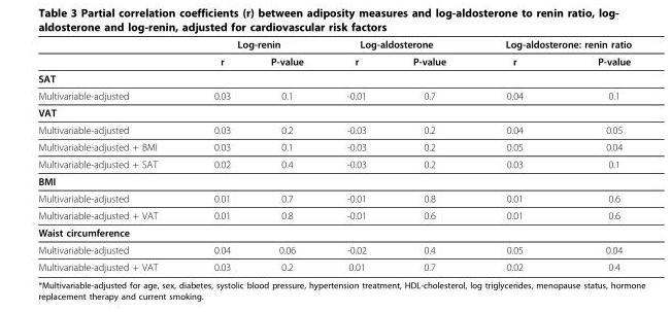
<table><thead><tr><td rowspan="2"></td><td colspan="2">Log-renin</td><td colspan="2">Log-aldosterone</td><td colspan="2">Log-aldosterone: renin ratio</td></tr><tr><td>r</td><td>P-value</td><td>r</td><td>P-value</td><td>r</td><td>P-value</td></tr></thead><tbody><tr><td colspan="7">SAT</td></tr><tr><td>Multivariable-adjusted</td><td>0.03</td><td>0.1</td><td>-0.01</td><td>0.7</td><td>0.04</td><td>0.1</td></tr><tr><td colspan="7">VAT</td></tr><tr><td>Multivariable-adjusted</td><td>0.03</td><td>0.2</td><td>-0.03</td><td>0.2</td><td>0.04</td><td>0.05</td></tr><tr><td>Multivariable-adjusted + BMI</td><td>0.03</td><td>0.1</td><td>-0.03</td><td>0.2</td><td>0.05</td><td>0.04</td></tr><tr><td>Multivariable-adjusted + SAT</td><td>0.02</td><td>0.4</td><td>-0.03</td><td>0.2</td><td>0.03</td><td>0.1</td></tr><tr><td colspan="7">BMI</td></tr><tr><td>Multivariable-adjusted</td><td>0.01</td><td>0.7</td><td>-0.01</td><td>0.8</td><td>0.01</td><td>0.6</td></tr><tr><td>Multivariable-adjusted + VAT</td><td>0.01</td><td>0.8</td><td>-0.01</td><td>0.6</td><td>0.01</td><td>0.6</td></tr><tr><td colspan="7">Waist circumference</td></tr><tr><td>Multivariable-adjusted</td><td>0.04</td><td>0.06</td><td>-0.02</td><td>0.4</td><td>0.05</td><td>0.04</td></tr><tr><td>Multivariable-adjusted + VAT</td><td>0.03</td><td>0.2</td><td>0.01</td><td>0.7</td><td>0.02</td><td>0.4</td></tr></tbody></table>